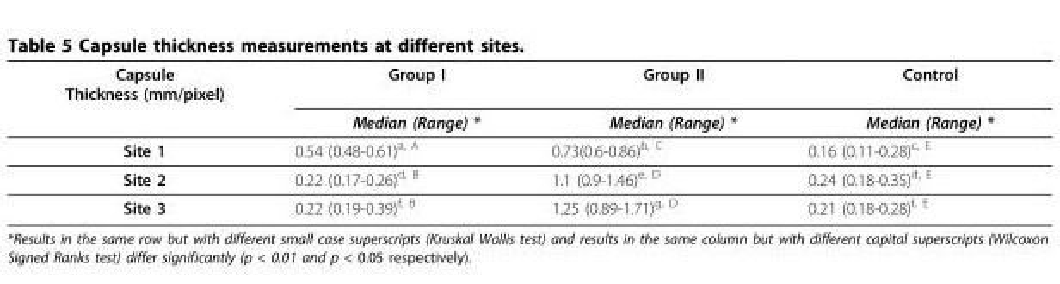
<table><thead><tr><td rowspan="2">Capsule Thickness (mm/pixel)</td><td rowspan="2">Group I Median (Range) *</td><td rowspan="2">Group II Median (Range) *</td><td rowspan="2">Control Median (Range) *</td></tr><tr></tr></thead><tbody><tr><td>Site 1</td><td>0.54 (0.48-0.61)<sup>a, A</sup></td><td>0.73(0.6-0.86)<sup>b, C</sup></td><td>0.16 (0.11-0.28)<sup>c, E</sup></td></tr><tr><td>Site 2</td><td>0.22 (0.17-0.26)<sup>d, B</sup></td><td>1.1 (0.9-1.46)<sup>e, D</sup></td><td>0.24 (0.18-0.35)<sup>d, E</sup></td></tr><tr><td>Site 3</td><td>0.22 (0.19-0.39)<sup>f, B</sup></td><td>1.25 (0.89-1.71)<sup>g, D</sup></td><td>0.21 (0.18-0.28)<sup>f, E</sup></td></tr></tbody></table>